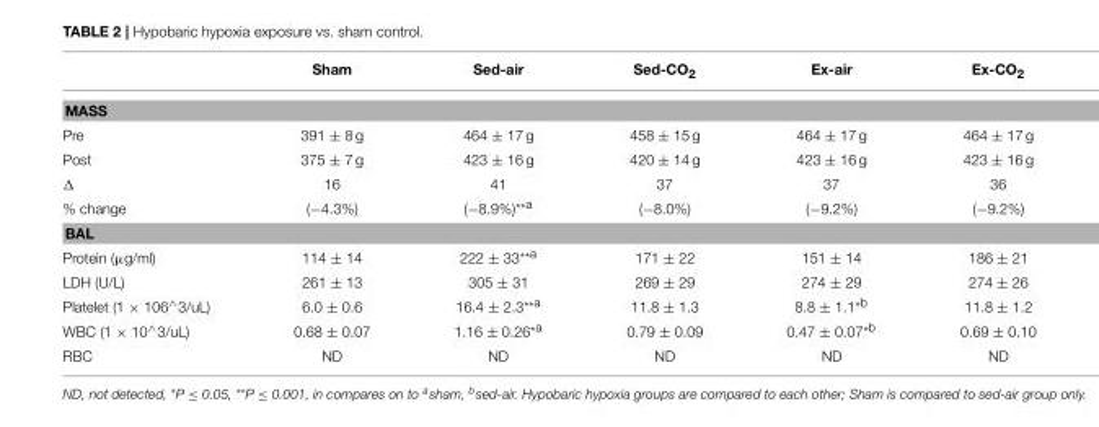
<table><thead><tr><td></td><td>Sham</td><td>Sed-air</td><td>Sed-CO<sub>2</sub></td><td>Ex-air</td><td>Ex-CO<sub>2</sub></td></tr></thead><tbody><tr><td colspan="6">MASS</td></tr><tr><td>Pre</td><td>391 ± 8 g</td><td>464 ± 17 g</td><td>458 ± 15 g</td><td>464 ± 17 g</td><td>464 ± 17 g</td></tr><tr><td>Post</td><td>375 ± 7 g</td><td>423 ± 16 g</td><td>420 ± 14 g</td><td>423 ± 16 g</td><td>423 ± 16 g</td></tr><tr><td>Δ</td><td>16</td><td>41</td><td>37</td><td>37</td><td>36</td></tr><tr><td>% change</td><td>(−4.3%)</td><td>(−8.9%)<sup>**a</sup></td><td>(−8.0%)</td><td>(−9.2%)</td><td>(−9.2%)</td></tr><tr><td colspan="6">BAL</td></tr><tr><td>Protein (µg/ml)</td><td>114 ± 14</td><td>222 ± 33<sup>**a</sup></td><td>171 ± 22</td><td>151 ± 14</td><td>186 ± 21</td></tr><tr><td>LDH (U/L)</td><td>261 ± 13</td><td>305 ± 31</td><td>269 ± 29</td><td>274 ± 29</td><td>274 ± 26</td></tr><tr><td>Platelet (1 × 106<sup>∧</sup>3/uL)</td><td>6.0 ± 0.6</td><td>16.4 ± 2.3<sup>**a</sup></td><td>11.8 ± 1.3</td><td>8.8 ± 1.1<sup>*b</sup></td><td>11.8 ± 1.2</td></tr><tr><td>WBC (1 × 10<sup>∧</sup>3/uL)</td><td>0.68 ± 0.07</td><td>1.16 ± 0.26<sup>*a</sup></td><td>0.79 ± 0.09</td><td>0.47 ± 0.07<sup>*b</sup></td><td>0.69 ± 0.10</td></tr><tr><td>RBC</td><td>ND</td><td>ND</td><td>ND</td><td>ND</td><td>ND</td></tr></tbody></table>